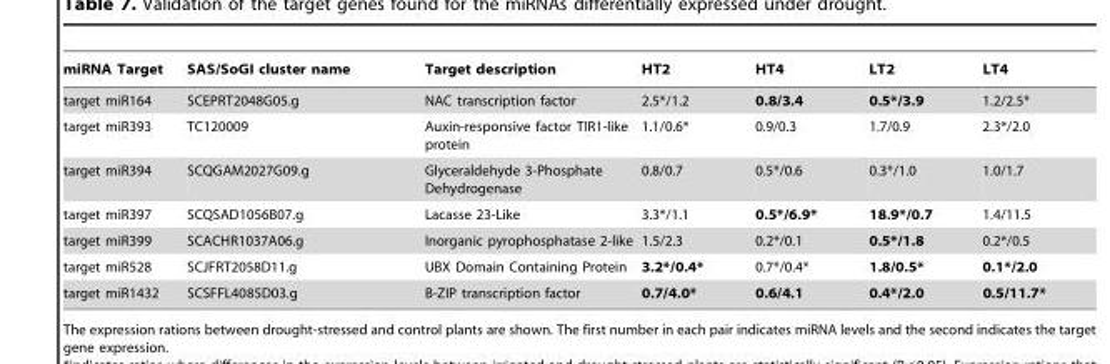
<table><thead><tr><td>miRNA Target</td><td>SAS/SoGI cluster name</td><td>Target description</td><td>HT2</td><td>HT4</td><td>LT2</td><td>LT4</td></tr></thead><tbody><tr><td>target miR164</td><td>SCEPRT2048G05.g</td><td>NAC transcription factor</td><td>2.5*/1.2</td><td>0.8/3.4</td><td>0.5*/3.9</td><td>1.2/2.5*</td></tr><tr><td>target miR393</td><td>TC120009</td><td>Auxin-responsive factor TIR1-like protein</td><td>1.1/0.6*</td><td>0.9/0.3</td><td>1.7/0.9</td><td>2.3*/2.0</td></tr><tr><td>target miR394</td><td>SCQGAM2027G09.g</td><td>Glyceraldehyde 3-Phosphate Dehydrogenase</td><td>0.8/0.7</td><td>0.5*/0.6</td><td>0.3*/1.0</td><td>1.0/1.7</td></tr><tr><td>target miR397</td><td>SCQSAD1056B07.g</td><td>Lacasse 23-Like</td><td>3.3*/1.1</td><td>0.5*/6.9*</td><td>18.9*/0.7</td><td>1.4/11.5</td></tr><tr><td>target miR399</td><td>SCACHR1037A06.g</td><td>Inorganic pyrophosphatase 2-like</td><td>1.5/2.3</td><td>0.2*/0.1</td><td>0.5*/1.8</td><td>0.2*/0.5</td></tr><tr><td>target miR528</td><td>SCJFRT2058D11.g</td><td>UBX Domain Containing Protein</td><td>3.2*/0.4*</td><td>0.7*/0.4*</td><td>1.8/0.5*</td><td>0.1*/2.0</td></tr><tr><td>target miR1432</td><td>SCSFFL4085D03.g</td><td>B-ZIP transcription factor</td><td>0.7/4.0*</td><td>0.6/4.1</td><td>0.4*/2.0</td><td>0.5/11.7*</td></tr></tbody></table>